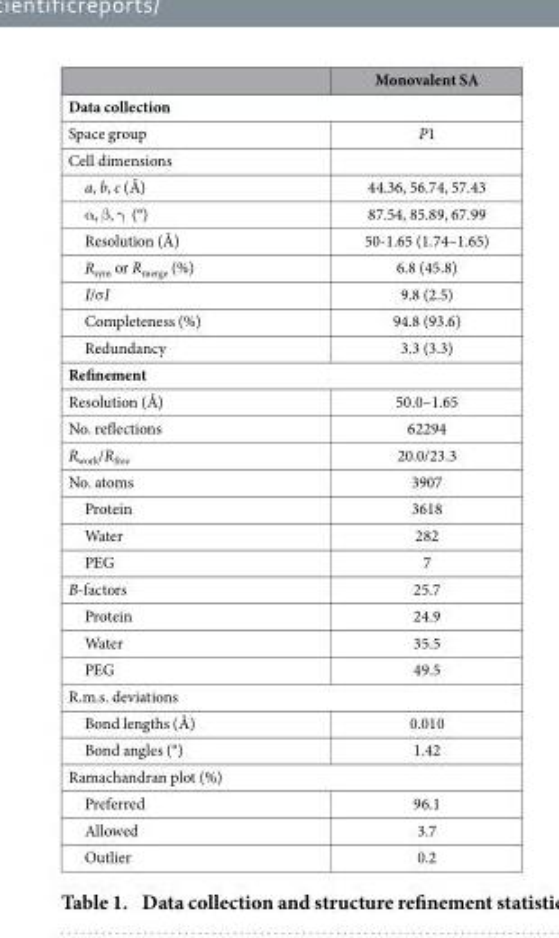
<table><thead><tr><td></td><td>Monovalent SA</td></tr></thead><tbody><tr><td colspan="2">Data collection</td></tr><tr><td>Space group</td><td>P1</td></tr><tr><td colspan="2">Cell dimensions</td></tr><tr><td>a, b, c (Å)</td><td>44.36, 56.74, 57.43</td></tr><tr><td>α , β , γ (°)</td><td>87.54, 85.89, 67.99</td></tr><tr><td>Resolution (Å)</td><td>50-1.65 (1.74–1.65)</td></tr><tr><td>R<sub>sym</sub> or R<sub>merge</sub> (%)</td><td>6.8 (45.8)</td></tr><tr><td>I/σ I</td><td>9.8 (2.5)</td></tr><tr><td>Completeness (%)</td><td>94.8 (93.6)</td></tr><tr><td>Redundancy</td><td>3.3 (3.3)</td></tr><tr><td colspan="2">Refinement</td></tr><tr><td>Resolution (Å)</td><td>50.0–1.65</td></tr><tr><td>No. reflections</td><td>62294</td></tr><tr><td>R<sub>work</sub>/R<sub>free</sub></td><td>20.0/23.3</td></tr><tr><td>No. atoms</td><td>3907</td></tr><tr><td>Protein</td><td>3618</td></tr><tr><td>Water</td><td>282</td></tr><tr><td>PEG</td><td>7</td></tr><tr><td>B-factors</td><td>25.7</td></tr><tr><td>Protein</td><td>24.9</td></tr><tr><td>Water</td><td>35.5</td></tr><tr><td>PEG</td><td>49.5</td></tr><tr><td colspan="2">R.m.s. deviations</td></tr><tr><td>Bond lengths (Å)</td><td>0.010</td></tr><tr><td>Bond angles (°)</td><td>1.42</td></tr><tr><td colspan="2">Ramachandran plot (%)</td></tr><tr><td>Preferred</td><td>96.1</td></tr><tr><td>Allowed</td><td>3.7</td></tr><tr><td>Outlier</td><td>0.2</td></tr></tbody></table>